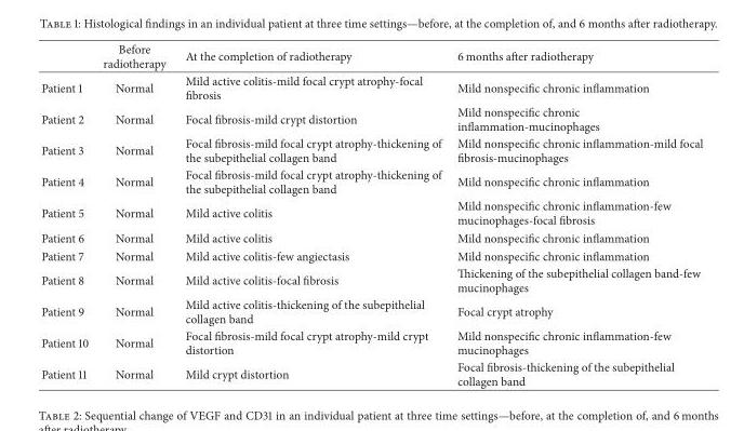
<table><thead><tr><td></td><td>Before radiotherapy</td><td>At the completion of radiotherapy</td><td>6 months after radiotherapy</td></tr></thead><tbody><tr><td>Patient 1</td><td>Normal</td><td>Mild active colitis-mild focal crypt atrophy-focal fibrosis</td><td>Mild nonspecific chronic inflammation</td></tr><tr><td>Patient 2</td><td>Normal</td><td>Focal fibrosis-mild crypt distortion</td><td>Mild nonspecific chronic inflammation-mucinophages</td></tr><tr><td>Patient 3</td><td>Normal</td><td>Focal fibrosis-mild focal crypt atrophy-thickening of the subepithelial collagen band</td><td>Mild nonspecific chronic inflammation-mild focal fibrosis-mucinophages</td></tr><tr><td>Patient 4</td><td>Normal</td><td>Focal fibrosis-mild focal crypt atrophy-thickening of the subepithelial collagen band</td><td>Mild nonspecific chronic inflammation</td></tr><tr><td>Patient 5</td><td>Normal</td><td>Mild active colitis</td><td>Mild nonspecific chronic inflammation-few mucinophages-focal fibrosis</td></tr><tr><td>Patient 6</td><td>Normal</td><td>Mild active colitis</td><td>Mild nonspecific chronic inflammation</td></tr><tr><td>Patient 7</td><td>Normal</td><td>Mild active colitis-few angiectasis</td><td>Mild nonspecific chronic inflammation</td></tr><tr><td>Patient 8</td><td>Normal</td><td>Mild active colitis-focal fibrosis</td><td>Thickening of the subepithelial collagen band-few mucinophages</td></tr><tr><td>Patient 9</td><td>Normal</td><td>Mild active colitis-thickening of the subepithelial collagen band</td><td>Focal crypt atrophy</td></tr><tr><td>Patient 10</td><td>Normal</td><td>Focal fibrosis-mild focal crypt atrophy-mild crypt distortion</td><td>Mild nonspecific chronic inflammation-few mucinophages</td></tr><tr><td>Patient 11</td><td>Normal</td><td>Mild crypt distortion</td><td>Focal fibrosis-thickening of the subepithelial collagen band</td></tr></tbody></table>